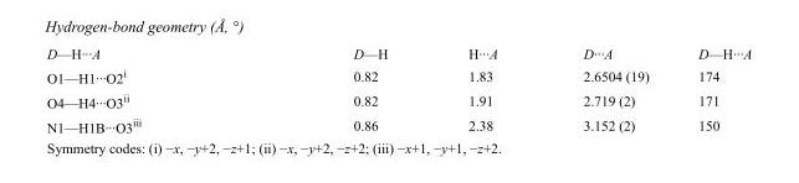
<table><tbody><tr><td>D—H···A</td><td>D—H</td><td>H···A</td><td>D···A</td><td>D—H···A</td></tr><tr><td>O1—H1···O2<sup>i</sup></td><td>0.82</td><td>1.83</td><td>2.6504 (19)</td><td>174</td></tr><tr><td>O4—H4···O3<sup>ii</sup></td><td>0.82</td><td>1.91</td><td>2.719 (2)</td><td>171</td></tr><tr><td>N1—H1B···O3<sup>iii</sup></td><td>0.86</td><td>2.38</td><td>3.152 (2)</td><td>150</td></tr></tbody></table>